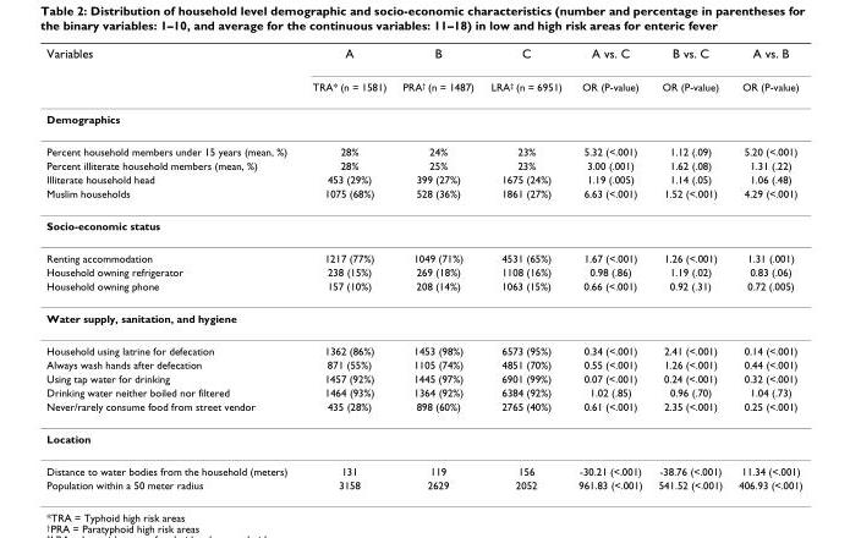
<table><thead><tr><td rowspan="2">Variables</td><td rowspan="2">A TRA* (n = 1581)</td><td rowspan="2">B PRA† (n = 1487)</td><td rowspan="2">C LRA‡ (n = 6951)</td><td rowspan="2">A vs. C OR (P-value)</td><td rowspan="2">B vs. C OR (P-value)</td><td rowspan="2">A vs. B OR (P-value)</td></tr><tr></tr></thead><tbody><tr><td colspan="7">Demographics</td></tr><tr><td>Percent household members under 15 years (mean, %)</td><td>28%</td><td>24%</td><td>23%</td><td>5.32 (&lt;.001)</td><td>1.12 (.09)</td><td>5.20 (&lt;.001)</td></tr><tr><td>Percent illiterate household members (mean, %)</td><td>28%</td><td>25%</td><td>23%</td><td>3.00 (.001)</td><td>1.62 (.08)</td><td>1.31 (.22)</td></tr><tr><td>Illiterate household head</td><td>453 (29%)</td><td>399 (27%)</td><td>1675 (24%)</td><td>1.19 (.005)</td><td>1.14 (.05)</td><td>1.06 (.48)</td></tr><tr><td>Muslim households</td><td>1075 (68%)</td><td>528 (36%)</td><td>1861 (27%)</td><td>6.63 (&lt;.001)</td><td>1.52 (&lt;.001)</td><td>4.29 (&lt;.001)</td></tr><tr><td colspan="7">Socio-economic status</td></tr><tr><td>Renting accommodation</td><td>1217 (77%)</td><td>1049 (71%)</td><td>4531 (65%)</td><td>1.67 (&lt;.001)</td><td>1.26 (&lt;.001)</td><td>1.31 (.001)</td></tr><tr><td>Household owning refrigerator</td><td>238 (15%)</td><td>269 (18%)</td><td>1108 (16%)</td><td>0.98 (.86)</td><td>1.19 (.02)</td><td>0.83 (.06)</td></tr><tr><td>Household owning phone</td><td>157 (10%)</td><td>208 (14%)</td><td>1063 (15%)</td><td>0.66 (&lt;.001)</td><td>0.92 (.31)</td><td>0.72 (.005)</td></tr><tr><td colspan="7">Water supply, sanitation, and hygiene</td></tr><tr><td>Household using latrine for defecation</td><td>1362 (86%)</td><td>1453 (98%)</td><td>6573 (95%)</td><td>0.34 (&lt;.001)</td><td>2.41 (&lt;.001)</td><td>0.14 (&lt;.001)</td></tr><tr><td>Always wash hands after defecation</td><td>871 (55%)</td><td>1105 (74%)</td><td>4851 (70%)</td><td>0.55 (&lt;.001)</td><td>1.26 (&lt;.001)</td><td>0.44 (&lt;.001)</td></tr><tr><td>Using tap water for drinking</td><td>1457 (92%)</td><td>1445 (97%)</td><td>6901 (99%)</td><td>0.07 (&lt;.001)</td><td>0.24 (&lt;.001)</td><td>0.32 (&lt;.001)</td></tr><tr><td>Drinking water neither boiled nor filtered</td><td>1464 (93%)</td><td>1364 (92%)</td><td>6384 (92%)</td><td>1.02 (.85)</td><td>0.96 (.70)</td><td>1.04 (.73)</td></tr><tr><td>Never/rarely consume food from street vendor</td><td>435 (28%)</td><td>898 (60%)</td><td>2765 (40%)</td><td>0.61 (&lt;.001)</td><td>2.35 (&lt;.001)</td><td>0.25 (&lt;.001)</td></tr><tr><td colspan="7">Location</td></tr><tr><td>Distance to water bodies from the household (meters)</td><td>131</td><td>119</td><td>156</td><td>-30.21 (&lt;.001)</td><td>-38.76 (&lt;.001)</td><td>11.34 (&lt;.001)</td></tr><tr><td>Population within a 50 meter radius</td><td>3158</td><td>2629</td><td>2052</td><td>961.83 (&lt;.001)</td><td>541.52 (&lt;.001)</td><td>406.93 (&lt;.001)</td></tr></tbody></table>